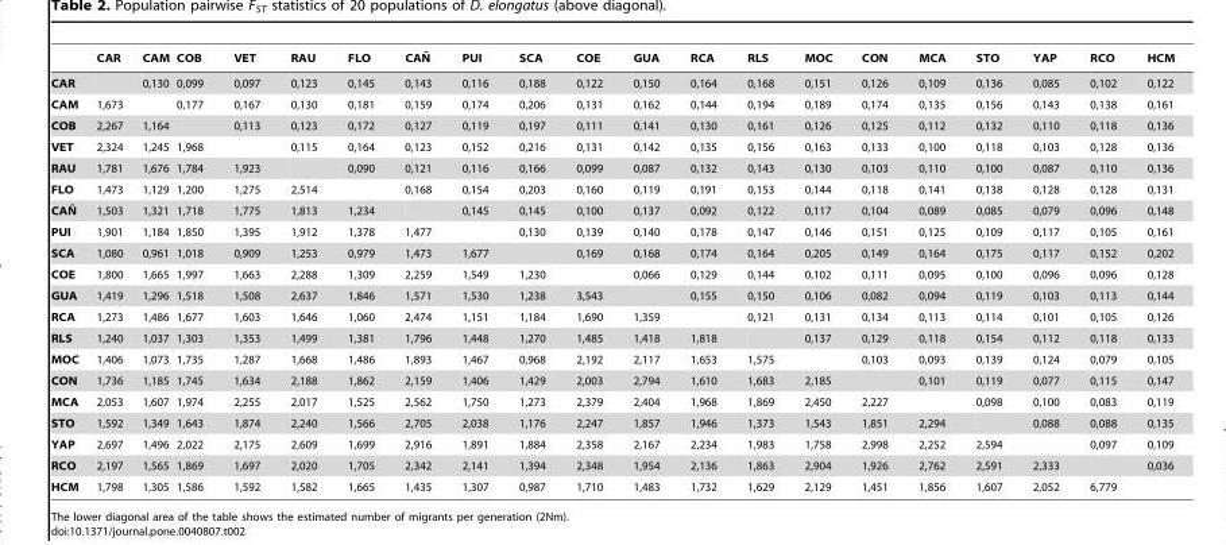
<table><thead><tr><td></td><td>CAR</td><td>CAM</td><td>COB</td><td>VET</td><td>RAU</td><td>FLO</td><td>CAN˜</td><td>PUI</td><td>SCA</td><td>COE</td><td>GUA</td><td>RCA</td><td>RLS</td><td>MOC</td><td>CON</td><td>MCA</td><td>STO</td><td>YAP</td><td>RCO</td><td>HCM</td></tr></thead><tbody><tr><td>CAR</td><td></td><td>0,130</td><td>0,099</td><td>0,097</td><td>0,123</td><td>0,145</td><td>0,143</td><td>0,116</td><td>0,188</td><td>0,122</td><td>0,150</td><td>0,164</td><td>0,168</td><td>0,151</td><td>0,126</td><td>0,109</td><td>0,136</td><td>0,085</td><td>0,102</td><td>0,122</td></tr><tr><td>CAM</td><td>1,673</td><td></td><td>0,177</td><td>0,167</td><td>0,130</td><td>0,181</td><td>0,159</td><td>0,174</td><td>0,206</td><td>0,131</td><td>0,162</td><td>0,144</td><td>0,194</td><td>0,189</td><td>0,174</td><td>0,135</td><td>0,156</td><td>0,143</td><td>0,138</td><td>0,161</td></tr><tr><td>COB</td><td>2,267</td><td>1,164</td><td></td><td>0,113</td><td>0,123</td><td>0,172</td><td>0,127</td><td>0,119</td><td>0,197</td><td>0,111</td><td>0,141</td><td>0,130</td><td>0,161</td><td>0,126</td><td>0,125</td><td>0,112</td><td>0,132</td><td>0,110</td><td>0,118</td><td>0,136</td></tr><tr><td>VET</td><td>2,324</td><td>1,245</td><td>1,968</td><td></td><td>0,115</td><td>0,164</td><td>0,123</td><td>0,152</td><td>0,216</td><td>0,131</td><td>0,142</td><td>0,135</td><td>0,156</td><td>0,163</td><td>0,133</td><td>0,100</td><td>0,118</td><td>0,103</td><td>0,128</td><td>0,136</td></tr><tr><td>RAU</td><td>1,781</td><td>1,676</td><td>1,784</td><td>1,923</td><td></td><td>0,090</td><td>0,121</td><td>0,116</td><td>0,166</td><td>0,099</td><td>0,087</td><td>0,132</td><td>0,143</td><td>0,130</td><td>0,103</td><td>0,110</td><td>0,100</td><td>0,087</td><td>0,110</td><td>0,136</td></tr><tr><td>FLO</td><td>1,473</td><td>1,129</td><td>1,200</td><td>1,275</td><td>2,514</td><td></td><td>0,168</td><td>0,154</td><td>0,203</td><td>0,160</td><td>0,119</td><td>0,191</td><td>0,153</td><td>0,144</td><td>0,118</td><td>0,141</td><td>0,138</td><td>0,128</td><td>0,128</td><td>0,131</td></tr><tr><td>CAN˜</td><td>1,503</td><td>1,321</td><td>1,718</td><td>1,775</td><td>1,813</td><td>1,234</td><td></td><td>0,145</td><td>0,145</td><td>0,100</td><td>0,137</td><td>0,092</td><td>0,122</td><td>0,117</td><td>0,104</td><td>0,089</td><td>0,085</td><td>0,079</td><td>0,096</td><td>0,148</td></tr><tr><td>PUI</td><td>1,901</td><td>1,184</td><td>1,850</td><td>1,395</td><td>1,912</td><td>1,378</td><td>1,477</td><td></td><td>0,130</td><td>0,139</td><td>0,140</td><td>0,178</td><td>0,147</td><td>0,146</td><td>0,151</td><td>0,125</td><td>0,109</td><td>0,117</td><td>0,105</td><td>0,161</td></tr><tr><td>SCA</td><td>1,080</td><td>0,961</td><td>1,018</td><td>0,909</td><td>1,253</td><td>0,979</td><td>1,473</td><td>1,677</td><td></td><td>0,169</td><td>0,168</td><td>0,174</td><td>0,164</td><td>0,205</td><td>0,149</td><td>0,164</td><td>0,175</td><td>0,117</td><td>0,152</td><td>0,202</td></tr><tr><td>COE</td><td>1,800</td><td>1,665</td><td>1,997</td><td>1,663</td><td>2,288</td><td>1,309</td><td>2,259</td><td>1,549</td><td>1,230</td><td></td><td>0,066</td><td>0,129</td><td>0,144</td><td>0,102</td><td>0,111</td><td>0,095</td><td>0,100</td><td>0,096</td><td>0,096</td><td>0,128</td></tr><tr><td>GUA</td><td>1,419</td><td>1,296</td><td>1,518</td><td>1,508</td><td>2,637</td><td>1,846</td><td>1,571</td><td>1,530</td><td>1,238</td><td>3,543</td><td></td><td>0,155</td><td>0,150</td><td>0,106</td><td>0,082</td><td>0,094</td><td>0,119</td><td>0,103</td><td>0,113</td><td>0,144</td></tr><tr><td>RCA</td><td>1,273</td><td>1,486</td><td>1,677</td><td>1,603</td><td>1,646</td><td>1,060</td><td>2,474</td><td>1,151</td><td>1,184</td><td>1,690</td><td>1,359</td><td></td><td>0,121</td><td>0,131</td><td>0,134</td><td>0,113</td><td>0,114</td><td>0,101</td><td>0,105</td><td>0,126</td></tr><tr><td>RLS</td><td>1,240</td><td>1,037</td><td>1,303</td><td>1,353</td><td>1,499</td><td>1,381</td><td>1,796</td><td>1,448</td><td>1,270</td><td>1,485</td><td>1,418</td><td>1,818</td><td></td><td>0,137</td><td>0,129</td><td>0,118</td><td>0,154</td><td>0,112</td><td>0,118</td><td>0,133</td></tr><tr><td>MOC</td><td>1,406</td><td>1,073</td><td>1,735</td><td>1,287</td><td>1,668</td><td>1,486</td><td>1,893</td><td>1,467</td><td>0,968</td><td>2,192</td><td>2,117</td><td>1,653</td><td>1,575</td><td></td><td>0,103</td><td>0,093</td><td>0,139</td><td>0,124</td><td>0,079</td><td>0,105</td></tr><tr><td>CON</td><td>1,736</td><td>1,185</td><td>1,745</td><td>1,634</td><td>2,188</td><td>1,862</td><td>2,159</td><td>1,406</td><td>1,429</td><td>2,003</td><td>2,794</td><td>1,610</td><td>1,683</td><td>2,185</td><td></td><td>0,101</td><td>0,119</td><td>0,077</td><td>0,115</td><td>0,147</td></tr><tr><td>MCA</td><td>2,053</td><td>1,607</td><td>1,974</td><td>2,255</td><td>2,017</td><td>1,525</td><td>2,562</td><td>1,750</td><td>1,273</td><td>2,379</td><td>2,404</td><td>1,968</td><td>1,869</td><td>2,450</td><td>2,227</td><td></td><td>0,098</td><td>0,100</td><td>0,083</td><td>0,119</td></tr><tr><td>STO</td><td>1,592</td><td>1,349</td><td>1,643</td><td>1,874</td><td>2,240</td><td>1,566</td><td>2,705</td><td>2,038</td><td>1,176</td><td>2,247</td><td>1,857</td><td>1,946</td><td>1,373</td><td>1,543</td><td>1,851</td><td>2,294</td><td></td><td>0,088</td><td>0,088</td><td>0,135</td></tr><tr><td>YAP</td><td>2,697</td><td>1,496</td><td>2,022</td><td>2,175</td><td>2,609</td><td>1,699</td><td>2,916</td><td>1,891</td><td>1,884</td><td>2,358</td><td>2,167</td><td>2,234</td><td>1,983</td><td>1,758</td><td>2,998</td><td>2,252</td><td>2,594</td><td></td><td>0,097</td><td>0,109</td></tr><tr><td>RCO</td><td>2,197</td><td>1,565</td><td>1,869</td><td>1,697</td><td>2,020</td><td>1,705</td><td>2,342</td><td>2,141</td><td>1,394</td><td>2,348</td><td>1,954</td><td>2,136</td><td>1,863</td><td>2,904</td><td>1,926</td><td>2,762</td><td>2,591</td><td>2,333</td><td></td><td>0,036</td></tr><tr><td>HCM</td><td>1,798</td><td>1,305</td><td>1,586</td><td>1,592</td><td>1,582</td><td>1,665</td><td>1,435</td><td>1,307</td><td>0,987</td><td>1,710</td><td>1,483</td><td>1,732</td><td>1,629</td><td>2,129</td><td>1,451</td><td>1,856</td><td>1,607</td><td>2,052</td><td>6,779</td><td></td></tr></tbody></table>